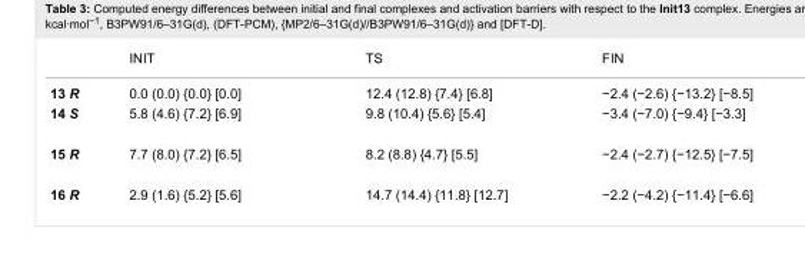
<table><thead><tr><td></td><td>INIT</td><td>TS</td><td>FIN</td></tr></thead><tbody><tr><td>13 R</td><td>0.0 (0.0) {0.0} [0.0]</td><td>12.4 (12.8) {7.4} [6.8]</td><td>−2.4 (−2.6) {−13.2} [−8.5]</td></tr><tr><td>14 S</td><td>5.8 (4.6) {7.2} [6.9]</td><td>9.8 (10.4) {5.6} [5.4]</td><td>−3.4 (−7.0) {−9.4} [−3.3]</td></tr><tr><td>15 R</td><td>7.7 (8.0) {7.2} [6.5]</td><td>8.2 (8.8) {4.7} [5.5]</td><td>−2.4 (−2.7) {−12.5} [−7.5]</td></tr><tr><td>16 R</td><td>2.9 (1.6) {5.2} [5.6]</td><td>14.7 (14.4) {11.8} [12.7]</td><td>−2.2 (−4.2) {−11.4} [−6.6]</td></tr></tbody></table>